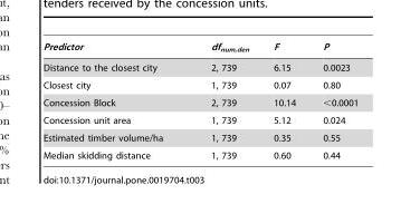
<table><thead><tr><td>Predictor</td><td>df<sub>num,den</sub></td><td>F</td><td>P</td></tr></thead><tbody><tr><td>Distance to the closest city</td><td>2, 739</td><td>6.15</td><td>0.0023</td></tr><tr><td>Closest city</td><td>1, 739</td><td>0.07</td><td>0.80</td></tr><tr><td>Concession Block</td><td>2, 739</td><td>10.14</td><td>&lt;0.0001</td></tr><tr><td>Concession unit area</td><td>1, 739</td><td>5.12</td><td>0.024</td></tr><tr><td>Estimated timber volume/ha</td><td>1, 739</td><td>0.35</td><td>0.55</td></tr><tr><td>Median skidding distance</td><td>1, 739</td><td>0.60</td><td>0.44</td></tr></tbody></table>